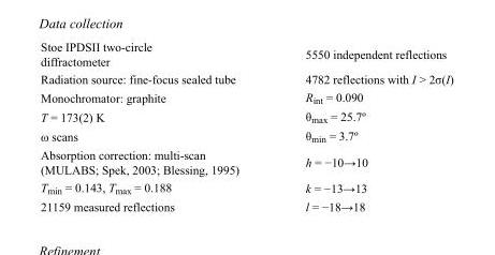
<table><tbody><tr><td>Stoe IPDSII two-circle diffractometer</td><td>5550 independent reflections</td></tr><tr><td>Radiation source: fine-focus sealed tube</td><td>4782 reflections with I &gt; 2σ(I)</td></tr><tr><td>Monochromator: graphite</td><td>R<sub>int</sub> = 0.090</td></tr><tr><td>T = 173(2) K</td><td>θ<sub>max</sub> = 25.7º</td></tr><tr><td>ω scans</td><td>θ<sub>min</sub> = 3.7º</td></tr><tr><td>Absorption correction: multi-scan (MULABS; Spek, 2003; Blessing, 1995)</td><td>h = −10→10</td></tr><tr><td>T<sub>min</sub> = 0.143, T<sub>max</sub> = 0.188</td><td>k = −13→13</td></tr><tr><td>21159 measured reflections</td><td>l = −18→18</td></tr></tbody></table>